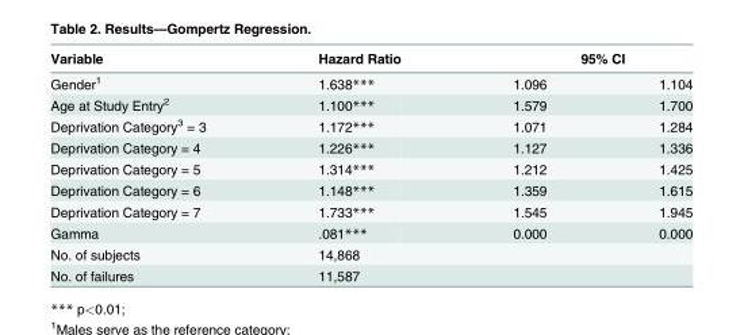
<table><thead><tr><td rowspan="2">Variable Gender<sup>1</sup></td><td rowspan="2">Hazard Ratio 1.638***</td><td colspan="2">95% CI</td></tr><tr><td>1.096</td><td>1.104</td></tr></thead><tbody><tr><td>Age at Study Entry<sup>2</sup></td><td>1.100***</td><td>1.579</td><td>1.700</td></tr><tr><td>Deprivation Category<sup>3</sup> = 3</td><td>1.172***</td><td>1.071</td><td>1.284</td></tr><tr><td>Deprivation Category = 4</td><td>1.226***</td><td>1.127</td><td>1.336</td></tr><tr><td>Deprivation Category = 5</td><td>1.314***</td><td>1.212</td><td>1.425</td></tr><tr><td>Deprivation Category = 6</td><td>1.148***</td><td>1.359</td><td>1.615</td></tr><tr><td>Deprivation Category = 7</td><td>1.733***</td><td>1.545</td><td>1.945</td></tr><tr><td>Gamma</td><td>.081***</td><td>0.000</td><td>0.000</td></tr><tr><td>No. of subjects</td><td colspan="2">14,868</td><td></td></tr><tr><td>No. of failures</td><td colspan="2">11,587</td><td></td></tr></tbody></table>